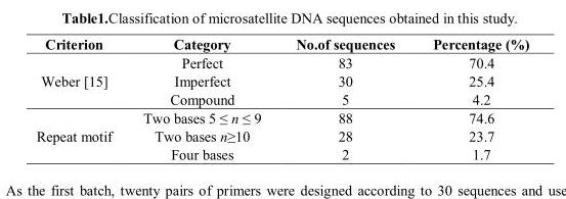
<table><thead><tr><td>Criterion</td><td>Category</td><td>No.of sequences</td><td>Percentage (%)</td></tr></thead><tbody><tr><td rowspan="3">Weber [15]</td><td>Perfect</td><td>83</td><td>70.4</td></tr><tr><td>Imperfect</td><td>30</td><td>25.4</td></tr><tr><td>Compound</td><td>5</td><td>4.2</td></tr><tr><td rowspan="3">Repeat motif</td><td>Two bases 5 ≤ n ≤ 9</td><td>88</td><td>74.6</td></tr><tr><td>Two bases n≥10</td><td>28</td><td>23.7</td></tr><tr><td>Four bases</td><td>2</td><td>1.7</td></tr></tbody></table>